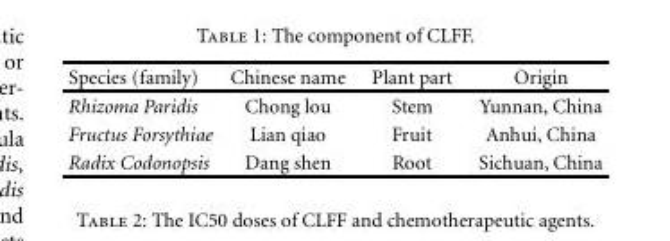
<table><thead><tr><td>Species (family)</td><td>Chinese name</td><td>Plant part</td><td>Origin</td></tr></thead><tbody><tr><td>Rhizoma Paridis</td><td>Chong lou</td><td>Stem</td><td>Yunnan, China</td></tr><tr><td>Fructus Forsythiae</td><td>Lian qiao</td><td>Fruit</td><td>Anhui, China</td></tr><tr><td>Radix Codonopsis</td><td>Dang shen</td><td>Root</td><td>Sichuan, China</td></tr></tbody></table>